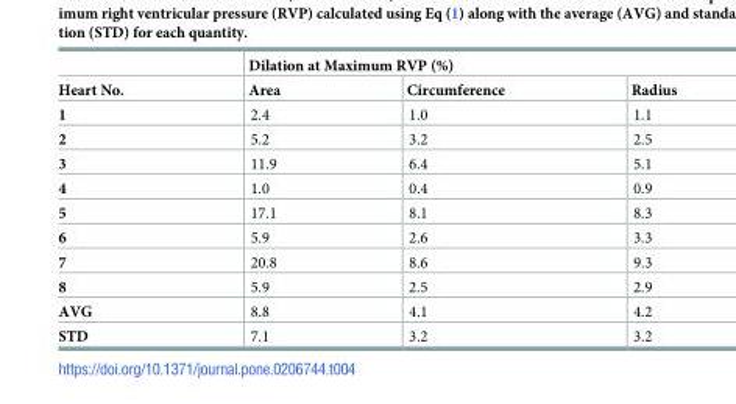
<table><thead><tr><td rowspan="2">Heart No.</td><td colspan="3">Dilation at Maximum RVP (%)</td></tr><tr><td>Area</td><td>Circumference</td><td>Radius</td></tr></thead><tbody><tr><td>1</td><td>2.4</td><td>1.0</td><td>1.1</td></tr><tr><td>2</td><td>5.2</td><td>3.2</td><td>2.5</td></tr><tr><td>3</td><td>11.9</td><td>6.4</td><td>5.1</td></tr><tr><td>4</td><td>1.0</td><td>0.4</td><td>0.9</td></tr><tr><td>5</td><td>17.1</td><td>8.1</td><td>8.3</td></tr><tr><td>6</td><td>5.9</td><td>2.6</td><td>3.3</td></tr><tr><td>7</td><td>20.8</td><td>8.6</td><td>9.3</td></tr><tr><td>8</td><td>5.9</td><td>2.5</td><td>2.9</td></tr><tr><td>AVG</td><td>8.8</td><td>4.1</td><td>4.2</td></tr><tr><td>STD</td><td>7.1</td><td>3.2</td><td>3.2</td></tr></tbody></table>